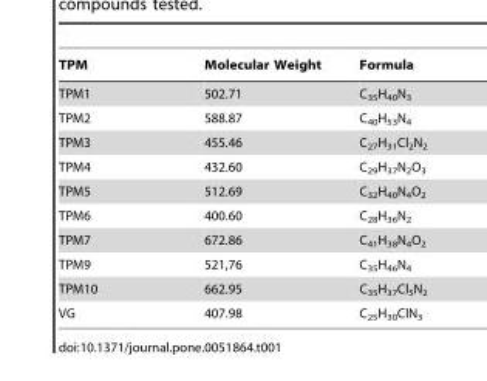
<table><thead><tr><td>TPM</td><td>Molecular Weight</td><td>Formula</td></tr></thead><tbody><tr><td>TPM1</td><td>502.71</td><td>C<sub>35</sub>H<sub>40</sub>N<sub>3</sub></td></tr><tr><td>TPM2</td><td>588.87</td><td>C<sub>40</sub>H<sub>53</sub>N<sub>4</sub></td></tr><tr><td>TPM3</td><td>455.46</td><td>C<sub>27</sub>H<sub>31</sub>Cl<sub>2</sub>N<sub>2</sub></td></tr><tr><td>TPM4</td><td>432.60</td><td>C<sub>29</sub>H<sub>37</sub>N<sub>2</sub>O<sub>3</sub></td></tr><tr><td>TPM5</td><td>512.69</td><td>C<sub>32</sub>H<sub>40</sub>N<sub>4</sub>O<sub>2</sub></td></tr><tr><td>TPM6</td><td>400.60</td><td>C<sub>28</sub>H<sub>36</sub>N<sub>2</sub></td></tr><tr><td>TPM7</td><td>672.86</td><td>C<sub>41</sub>H<sub>38</sub>N<sub>4</sub>O<sub>2</sub></td></tr><tr><td>TPM9</td><td>521,76</td><td>C<sub>35</sub>H<sub>46</sub>N<sub>4</sub></td></tr><tr><td>TPM10</td><td>662.95</td><td>C<sub>35</sub>H<sub>37</sub>Cl<sub>5</sub>N<sub>2</sub></td></tr><tr><td>VG</td><td>407.98</td><td>C<sub>25</sub>H<sub>30</sub>ClN<sub>3</sub></td></tr></tbody></table>